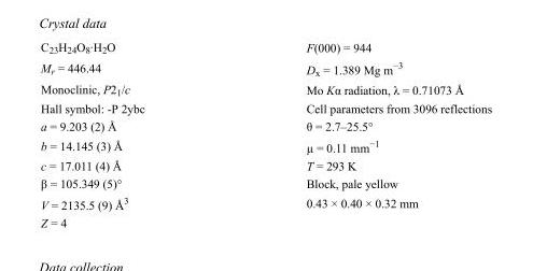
<table><tbody><tr><td>C<sub>23</sub>H<sub>24</sub>O<sub>8</sub>·H<sub>2</sub>O</td><td>F(000) = 944</td></tr><tr><td>M<sub>r</sub> = 446.44</td><td>D<sub>x</sub> = 1.389 Mg m<sup>−3</sup></td></tr><tr><td>Monoclinic, P2<sub>1</sub>/c</td><td>Mo Kα radiation, λ = 0.71073 Å</td></tr><tr><td>Hall symbol: -P 2ybc</td><td>Cell parameters from 3096 reflections</td></tr><tr><td>a = 9.203 (2) Å</td><td>θ = 2.7–25.5°</td></tr><tr><td>b = 14.145 (3) Å</td><td>µ = 0.11 mm<sup>−1</sup></td></tr><tr><td>c = 17.011 (4) Å</td><td>T = 293 K</td></tr><tr><td>β = 105.349 (5)°</td><td>Block, pale yellow</td></tr><tr><td>V = 2135.5 (9) Å<sup>3</sup></td><td>0.43 × 0.40 × 0.32 mm</td></tr><tr><td>Z = 4</td><td></td></tr></tbody></table>